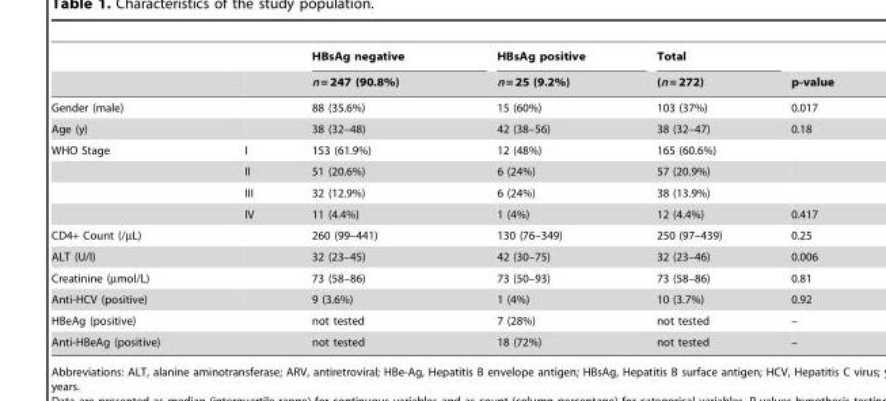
<table><thead><tr><td rowspan="2"></td><td rowspan="2"></td><td rowspan="2">HBsAg negative n = 247 (90.8%)</td><td rowspan="2">HBsAg positive n = 25 (9.2%)</td><td rowspan="2">Total (n = 272)</td><td rowspan="2">p-value</td></tr><tr></tr></thead><tbody><tr><td>Gender (male)</td><td></td><td>88 (35.6%)</td><td>15 (60%)</td><td>103 (37%)</td><td>0.017</td></tr><tr><td>Age (y)</td><td></td><td>38 (32–48)</td><td>42 (38–56)</td><td>38 (32–47)</td><td>0.18</td></tr><tr><td rowspan="4">WHO Stage</td><td>I</td><td>153 (61.9%)</td><td>12 (48%)</td><td>165 (60.6%)</td><td></td></tr><tr><td>II</td><td>51 (20.6%)</td><td>6 (24%)</td><td>57 (20.9%)</td><td></td></tr><tr><td>III</td><td>32 (12.9%)</td><td>6 (24%)</td><td>38 (13.9%)</td><td></td></tr><tr><td>IV</td><td>11 (4.4%)</td><td>1 (4%)</td><td>12 (4.4%)</td><td>0.417</td></tr><tr><td>CD4+ Count (/µL)</td><td></td><td>260 (99–441)</td><td>130 (76–349)</td><td>250 (97–439)</td><td>0.25</td></tr><tr><td>ALT (U/l)</td><td></td><td>32 (23–45)</td><td>42 (30–75)</td><td>32 (23–46)</td><td>0.006</td></tr><tr><td>Creatinine (µmol/L)</td><td></td><td>73 (58–86)</td><td>73 (50–93)</td><td>73 (58–86)</td><td>0.81</td></tr><tr><td>Anti-HCV (positive)</td><td></td><td>9 (3.6%)</td><td>1 (4%)</td><td>10 (3.7%)</td><td>0.92</td></tr><tr><td>HBeAg (positive)</td><td></td><td>not tested</td><td>7 (28%)</td><td>not tested</td><td>–</td></tr><tr><td colspan="2">Anti-HBeAg (positive)</td><td>not tested</td><td>18 (72%)</td><td>not tested</td><td>–</td></tr></tbody></table>